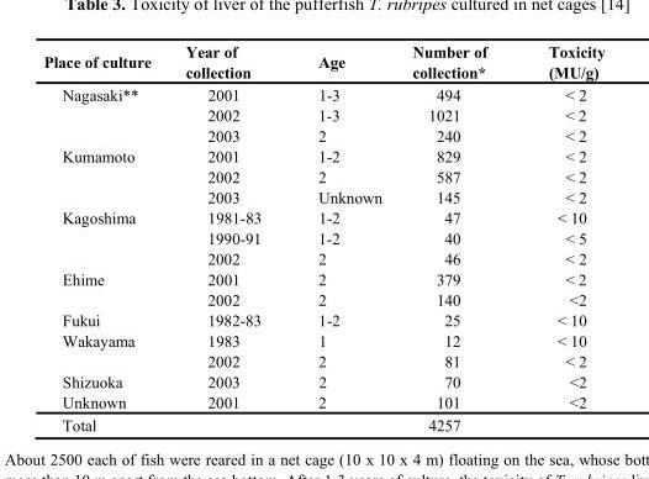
<table><thead><tr><td>Place of culture</td><td>Year of collection</td><td>Age</td><td>Number of collection*</td><td>Toxicity (MU/g)</td></tr></thead><tbody><tr><td rowspan="3">Nagasaki**</td><td>2001</td><td>1-3</td><td>494</td><td>&lt; 2</td></tr><tr><td>2002</td><td>1-3</td><td>1021</td><td>&lt; 2</td></tr><tr><td>2003</td><td>2</td><td>240</td><td>&lt; 2</td></tr><tr><td rowspan="3">Kumamoto</td><td>2001</td><td>1-2</td><td>829</td><td>&lt; 2</td></tr><tr><td>2002</td><td>2</td><td>587</td><td>&lt; 2</td></tr><tr><td>2003</td><td>Unknown</td><td>145</td><td>&lt; 2</td></tr><tr><td rowspan="3">Kagoshima</td><td>1981-83</td><td>1-2</td><td>47</td><td>&lt; 10</td></tr><tr><td>1990-91</td><td>1-2</td><td>40</td><td>&lt; 5</td></tr><tr><td>2002</td><td>2</td><td>46</td><td>&lt; 2</td></tr><tr><td rowspan="2">Ehime</td><td>2001</td><td>2</td><td>379</td><td>&lt; 2</td></tr><tr><td>2002</td><td>2</td><td>140</td><td>&lt;2</td></tr><tr><td>Fukui</td><td>1982-83</td><td>1-2</td><td>25</td><td>&lt; 10</td></tr><tr><td rowspan="2">Wakayama</td><td>1983</td><td>1</td><td>12</td><td>&lt; 10</td></tr><tr><td>2002</td><td>2</td><td>81</td><td>&lt; 2</td></tr><tr><td>Shizuoka</td><td>2003</td><td>2</td><td>70</td><td>&lt;2</td></tr><tr><td>Unknown</td><td>2001</td><td>2</td><td>101</td><td>&lt;2</td></tr><tr><td>Total</td><td></td><td></td><td>4257</td><td></td></tr></tbody></table>